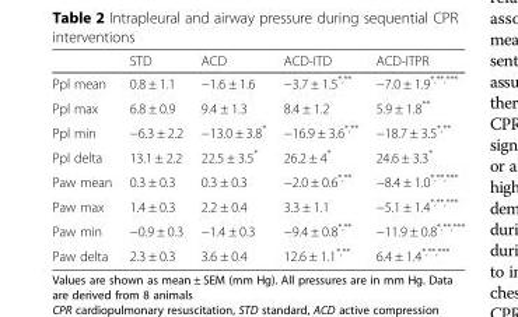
<table><thead><tr><td></td><td>STD</td><td>ACD</td><td>ACD-ITD</td><td>ACD-ITPR</td></tr></thead><tbody><tr><td>Ppl mean</td><td>0.8 ± 1.1</td><td>−1.6 ± 1.6</td><td>−3.7 ± 1.5<sup>*,**</sup></td><td>−7.0 ± 1.9<sup>*,**,***</sup></td></tr><tr><td>Ppl max</td><td>6.8 ± 0.9</td><td>9.4 ± 1.3</td><td>8.4 ± 1.2</td><td>5.9 ± 1.8**</td></tr><tr><td>Ppl min</td><td>−6.3 ± 2.2</td><td>−13.0 ± 3.8*</td><td>−16.9 ± 3.6<sup>*,**</sup></td><td>−18.7 ± 3.5<sup>*,**</sup></td></tr><tr><td>Ppl delta</td><td>13.1 ± 2.2</td><td>22.5 ± 3.5*</td><td>26.2 ± 4*</td><td>24.6 ± 3.3*</td></tr><tr><td>Paw mean</td><td>0.3 ± 0.3</td><td>0.3 ± 0.3</td><td>−2.0 ± 0.6<sup>*,**</sup></td><td>−8.4 ± 1.0<sup>*,**,***</sup></td></tr><tr><td>Paw max</td><td>1.4 ± 0.3</td><td>2.2 ± 0.4</td><td>3.3 ± 1.1</td><td>−5.1 ± 1.4<sup>*,**,***</sup></td></tr><tr><td>Paw min</td><td>−0.9 ± 0.3</td><td>−1.4 ± 0.3</td><td>−9.4 ± 0.8<sup>*,**</sup></td><td>−11.9 ± 0.8<sup>*,**,***</sup></td></tr><tr><td>Paw delta</td><td>2.3 ± 0.3</td><td>3.6 ± 0.4</td><td>12.6 ± 1.1<sup>*,**</sup></td><td>6.4 ± 1.4<sup>*,**,***</sup></td></tr></tbody></table>